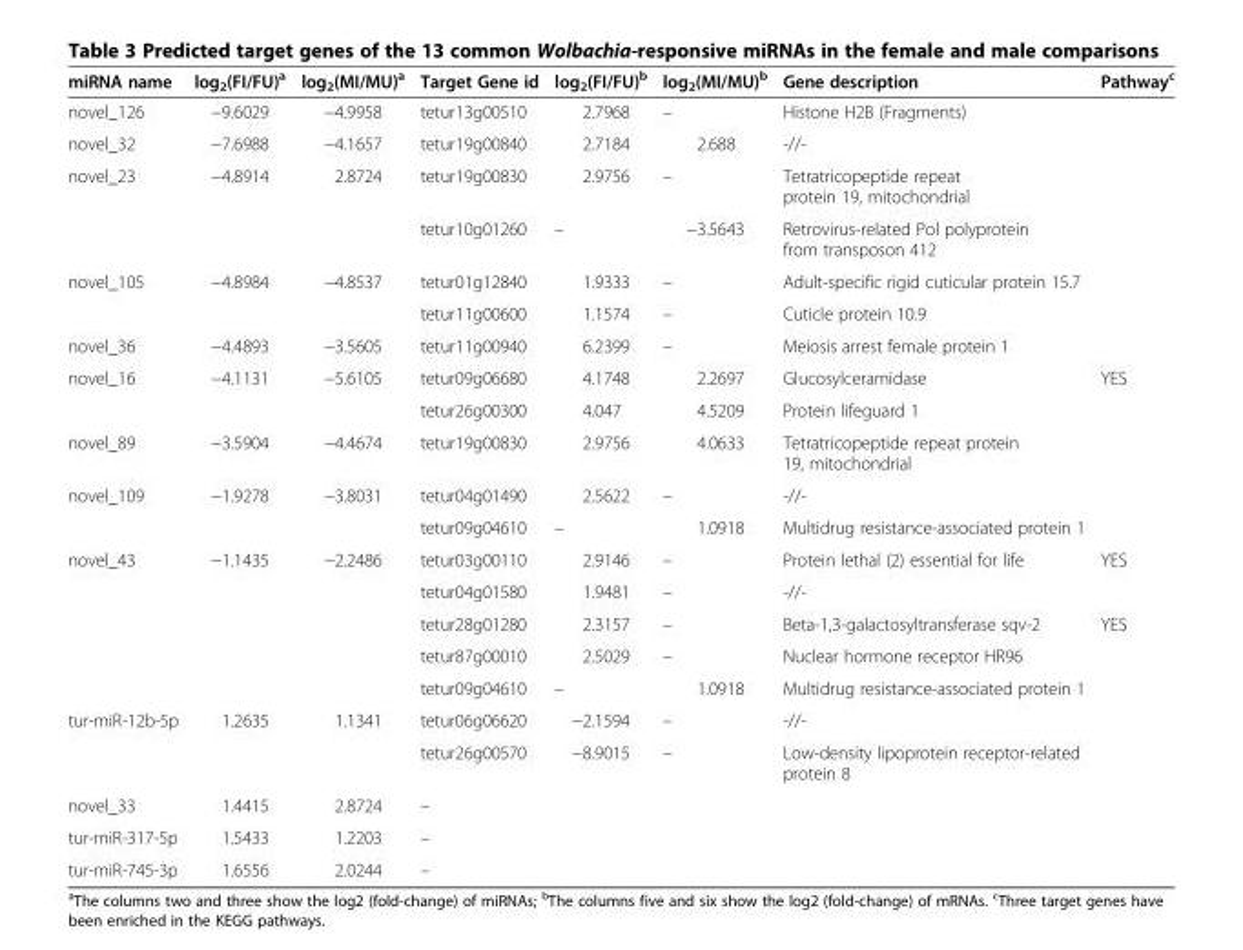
<table><thead><tr><td>miRNA name</td><td>log<sub>2</sub>(FI/FU)<sup>a</sup></td><td>log<sub>2</sub>(MI/MU)<sup>a</sup></td><td>Target Gene id</td><td>log<sub>2</sub>(FI/FU)<sup>b</sup></td><td>log<sub>2</sub>(MI/MU)<sup>b</sup></td><td>Gene description</td><td>Pathway<sup>c</sup></td></tr></thead><tbody><tr><td>novel_126</td><td>−9.6029</td><td>−4.9958</td><td>tetur13g00510</td><td>2.7968</td><td>–</td><td>Histone H2B (Fragments)</td><td></td></tr><tr><td>novel_32</td><td>−7.6988</td><td>−4.1657</td><td>tetur19g00840</td><td>2.7184</td><td>2.688</td><td>-//-</td><td></td></tr><tr><td rowspan="2">novel_23</td><td>−4.8914</td><td>2.8724</td><td>tetur19g00830</td><td>2.9756</td><td>–</td><td>Tetratricopeptide repeat protein 19, mitochondrial</td><td></td></tr><tr><td></td><td></td><td>tetur10g01260</td><td>–</td><td>−3.5643</td><td>Retrovirus-related Pol polyprotein from transposon 412</td><td></td></tr><tr><td rowspan="2">novel_105</td><td>−4.8984</td><td>−4.8537</td><td>tetur01g12840</td><td>1.9333</td><td>–</td><td>Adult-specific rigid cuticular protein 15.7</td><td></td></tr><tr><td></td><td></td><td>tetur11g00600</td><td>1.1574</td><td>–</td><td>Cuticle protein 10.9</td><td></td></tr><tr><td>novel_36</td><td>−4.4893</td><td>−3.5605</td><td>tetur11g00940</td><td>6.2399</td><td>–</td><td>Meiosis arrest female protein 1</td><td></td></tr><tr><td rowspan="2">novel_16</td><td>−4.1131</td><td>−5.6105</td><td>tetur09g06680</td><td>4.1748</td><td>2.2697</td><td>Glucosylceramidase</td><td>YES</td></tr><tr><td></td><td></td><td>tetur26g00300</td><td>4.047</td><td>4.5209</td><td>Protein lifeguard 1</td><td></td></tr><tr><td>novel_89</td><td>−3.5904</td><td>−4.4674</td><td>tetur19g00830</td><td>2.9756</td><td>4.0633</td><td>Tetratricopeptide repeat protein 19, mitochondrial</td><td></td></tr><tr><td rowspan="2">novel_109</td><td>−1.9278</td><td>−3.8031</td><td>tetur04g01490</td><td>2.5622</td><td>–</td><td>-//-</td><td></td></tr><tr><td></td><td></td><td>tetur09g04610</td><td>–</td><td>1.0918</td><td>Multidrug resistance-associated protein 1</td><td></td></tr><tr><td rowspan="5">novel_43</td><td>−1.1435</td><td>−2.2486</td><td>tetur03g00110</td><td>2.9146</td><td>–</td><td>Protein lethal (2) essential for life</td><td>YES</td></tr><tr><td></td><td></td><td>tetur04g01580</td><td>1.9481</td><td>–</td><td>-//-</td><td></td></tr><tr><td></td><td></td><td>tetur28g01280</td><td>2.3157</td><td>–</td><td>Beta-1,3-galactosyltransferase sqv-2</td><td>YES</td></tr><tr><td></td><td></td><td>tetur87g00010</td><td>2.5029</td><td>–</td><td>Nuclear hormone receptor HR96</td><td></td></tr><tr><td></td><td></td><td>tetur09g04610</td><td>–</td><td>1.0918</td><td>Multidrug resistance-associated protein 1</td><td></td></tr><tr><td rowspan="2">tur-miR-12b-5p</td><td>1.2635</td><td>1.1341</td><td>tetur06g06620</td><td>−2.1594</td><td>–</td><td>-//-</td><td></td></tr><tr><td></td><td></td><td>tetur26g00570</td><td>−8.9015</td><td>–</td><td>Low-density lipoprotein receptor-related protein 8</td><td></td></tr><tr><td>novel_33</td><td>1.4415</td><td>2.8724</td><td>–</td><td></td><td></td><td></td><td></td></tr><tr><td>tur-miR-317-5p</td><td>1.5433</td><td>1.2203</td><td>–</td><td></td><td></td><td></td><td></td></tr><tr><td>tur-miR-745-3p</td><td>1.6556</td><td>2.0244</td><td>–</td><td></td><td></td><td></td><td></td></tr></tbody></table>